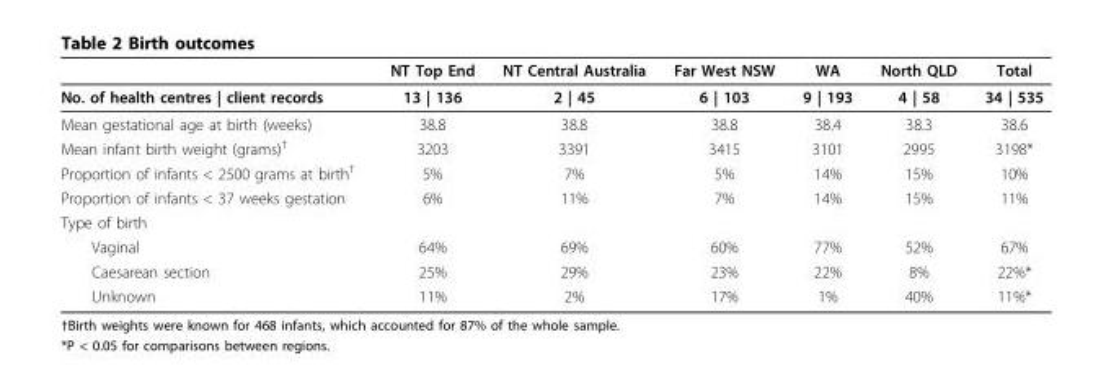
<table><thead><tr><td></td><td>NT Top End</td><td>NT Central Australia</td><td>Far West NSW</td><td>WA</td><td>North QLD</td><td>Total</td></tr></thead><tbody><tr><td>No. of health centres | client records</td><td>13 | 136</td><td>2 | 45</td><td>6 | 103</td><td>9 | 193</td><td>4 | 58</td><td>34 | 535</td></tr><tr><td>Mean gestational age at birth (weeks)</td><td>38.8</td><td>38.8</td><td>38.8</td><td>38.4</td><td>38.3</td><td>38.6</td></tr><tr><td>Mean infant birth weight (grams)<sup>†</sup></td><td>3203</td><td>3391</td><td>3415</td><td>3101</td><td>2995</td><td>3198*</td></tr><tr><td>Proportion of infants &lt; 2500 grams at birth<sup>†</sup></td><td>5%</td><td>7%</td><td>5%</td><td>14%</td><td>15%</td><td>10%</td></tr><tr><td>Proportion of infants &lt; 37 weeks gestation</td><td>6%</td><td>11%</td><td>7%</td><td>14%</td><td>15%</td><td>11%</td></tr><tr><td colspan="7">Type of birth</td></tr><tr><td>Vaginal</td><td>64%</td><td>69%</td><td>60%</td><td>77%</td><td>52%</td><td>67%</td></tr><tr><td>Caesarean section</td><td>25%</td><td>29%</td><td>23%</td><td>22%</td><td>8%</td><td>22%*</td></tr><tr><td>Unknown</td><td>11%</td><td>2%</td><td>17%</td><td>1%</td><td>40%</td><td>11%*</td></tr></tbody></table>